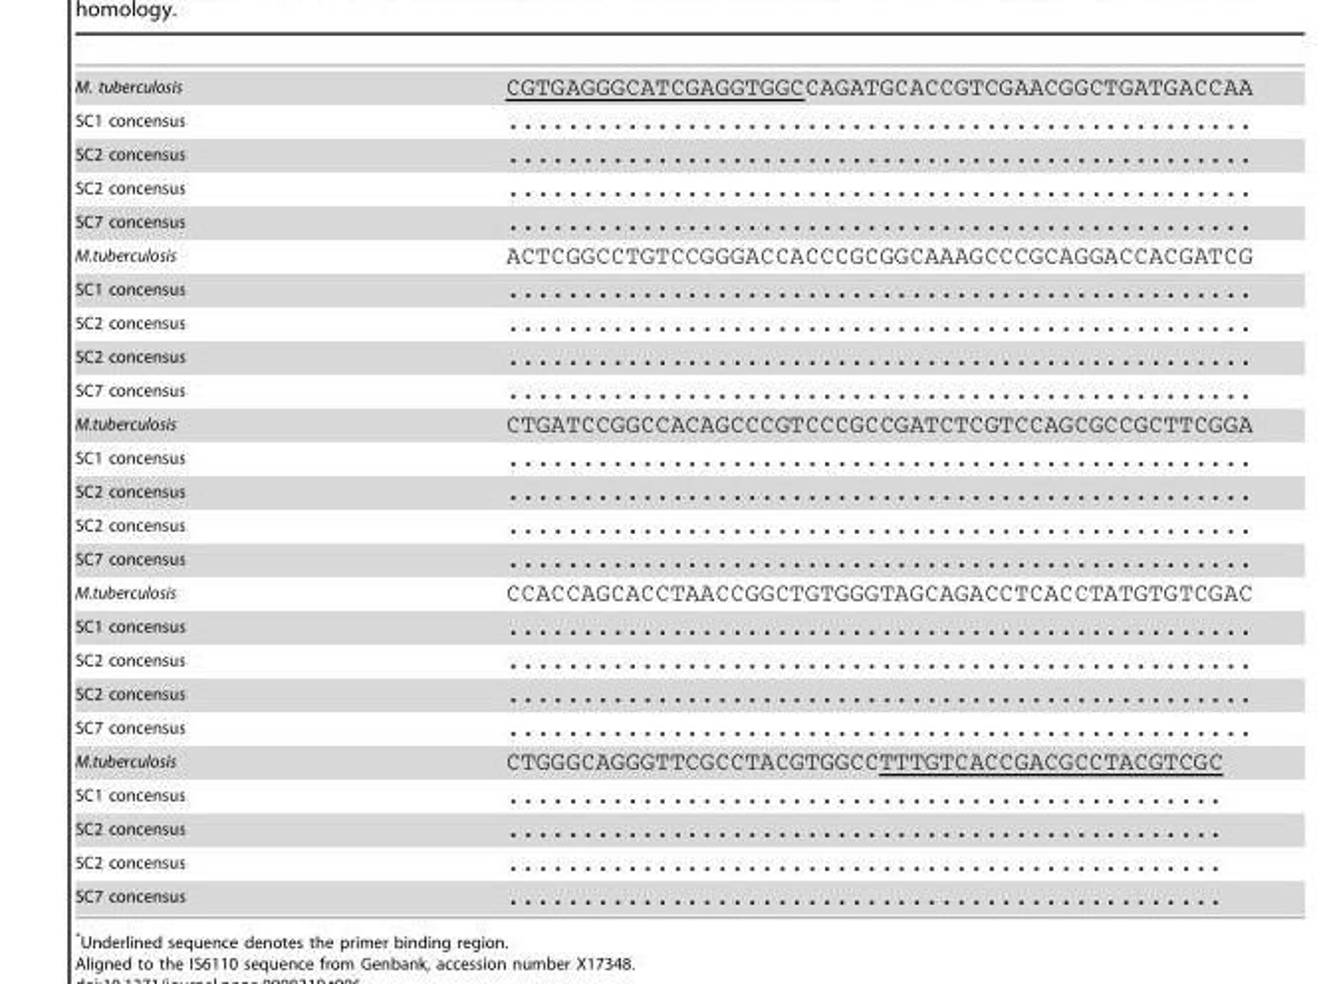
<table><tbody><tr><td>M. tuberculosis</td><td>CGTGAGGGCATCGAGGTGGCCAGATGCACCGTCGAACGGCTGATGACCAA</td></tr><tr><td>SC1 concensus</td><td>..................................................</td></tr><tr><td>SC2 concensus</td><td>..................................................</td></tr><tr><td>SC2 concensus</td><td>..................................................</td></tr><tr><td>SC7 concensus</td><td>..................................................</td></tr><tr><td>M.tuberculosis</td><td>ACTCGGCCTGTCCGGGACCACCCGCGGCAAAGCCCGCAGGACCACGATCG</td></tr><tr><td>SC1 concensus</td><td>..................................................</td></tr><tr><td>SC2 concensus</td><td>..................................................</td></tr><tr><td>SC2 concensus</td><td>..................................................</td></tr><tr><td>SC7 concensus</td><td>..................................................</td></tr><tr><td>M.tuberculosis</td><td>CTGATCCGGCCACAGCCCGTCCCGCCGATCTCGTCCAGCGCCGCTTCGGA</td></tr><tr><td>SC1 concensus</td><td>..................................................</td></tr><tr><td>SC2 concensus</td><td>..................................................</td></tr><tr><td>SC2 concensus</td><td>..................................................</td></tr><tr><td>SC7 concensus</td><td>..................................................</td></tr><tr><td>M.tuberculosis</td><td>CCACCAGCACCTAACCGGCTGTGGGTAGCAGACCTCACCTATGTGTCGAC</td></tr><tr><td>SC1 concensus</td><td>..................................................</td></tr><tr><td>SC2 concensus</td><td>..................................................</td></tr><tr><td>SC2 concensus</td><td>..................................................</td></tr><tr><td>SC7 concensus</td><td>..................................................</td></tr><tr><td>M.tuberculosis</td><td>CTGGGCAGGGTTCGCCTACGTGGCCTTTGTCACCGACGCCTACGTCGC</td></tr><tr><td>SC1 concensus</td><td>................................................</td></tr><tr><td>SC2 concensus</td><td>................................................</td></tr><tr><td>SC2 concensus</td><td>................................................</td></tr><tr><td>SC7 concensus</td><td>................................................</td></tr></tbody></table>